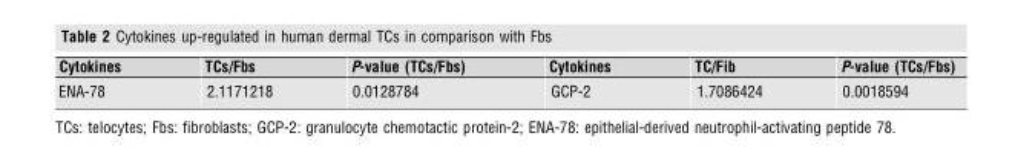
<table><thead><tr><td>Cytokines</td><td>TCs/Fbs</td><td>P-value (TCs/Fbs)</td><td>Cytokines</td><td>TC/Fib</td><td>P-value (TCs/Fbs)</td></tr></thead><tbody><tr><td>ENA-78</td><td>2.1171218</td><td>0.0128784</td><td>GCP-2</td><td>1.7086424</td><td>0.0018594</td></tr></tbody></table>